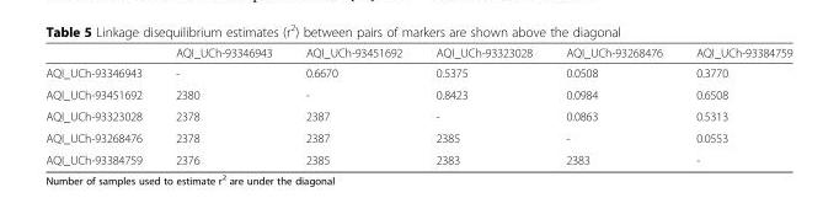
<table><thead><tr><td></td><td>AQI_UCh-93346943</td><td>AQI_UCh-93451692</td><td>AQI_UCh-93323028</td><td>AQI_UCh-93268476</td><td>AQI_UCh-93384759</td></tr></thead><tbody><tr><td>AQI_UCh-93346943</td><td>-</td><td>0.6670</td><td>0.5375</td><td>0.0508</td><td>0.3770</td></tr><tr><td>AQI_UCh-93451692</td><td>2380</td><td>-</td><td>0.8423</td><td>0.0984</td><td>0.6508</td></tr><tr><td>AQI_UCh-93323028</td><td>2378</td><td>2387</td><td>-</td><td>0.0863</td><td>0.5313</td></tr><tr><td>AQI_UCh-93268476</td><td>2378</td><td>2387</td><td>2385</td><td>-</td><td>0.0553</td></tr><tr><td>AQI_UCh-93384759</td><td>2376</td><td>2385</td><td>2383</td><td>2383</td><td>-</td></tr></tbody></table>